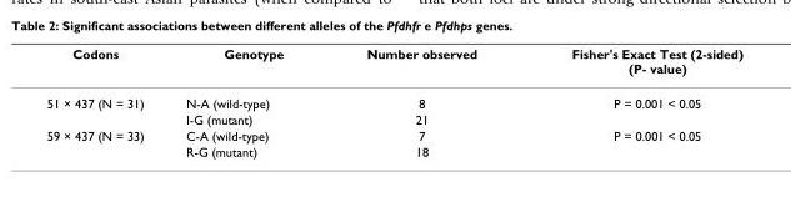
<table><thead><tr><td>Codons</td><td>Genotype</td><td>Number observed</td><td>Fisher&#x27;s Exact Test (2-sided) (P- value)</td></tr></thead><tbody><tr><td rowspan="2">51 × 437 (N = 31)</td><td>N-A (wild-type)</td><td>8</td><td>P = 0.001 &lt; 0.05</td></tr><tr><td>I-G (mutant)</td><td>21</td><td></td></tr><tr><td rowspan="2">59 × 437 (N = 33)</td><td>C-A (wild-type)</td><td>7</td><td>P = 0.001 &lt; 0.05</td></tr><tr><td>R-G (mutant)</td><td>18</td><td></td></tr></tbody></table>